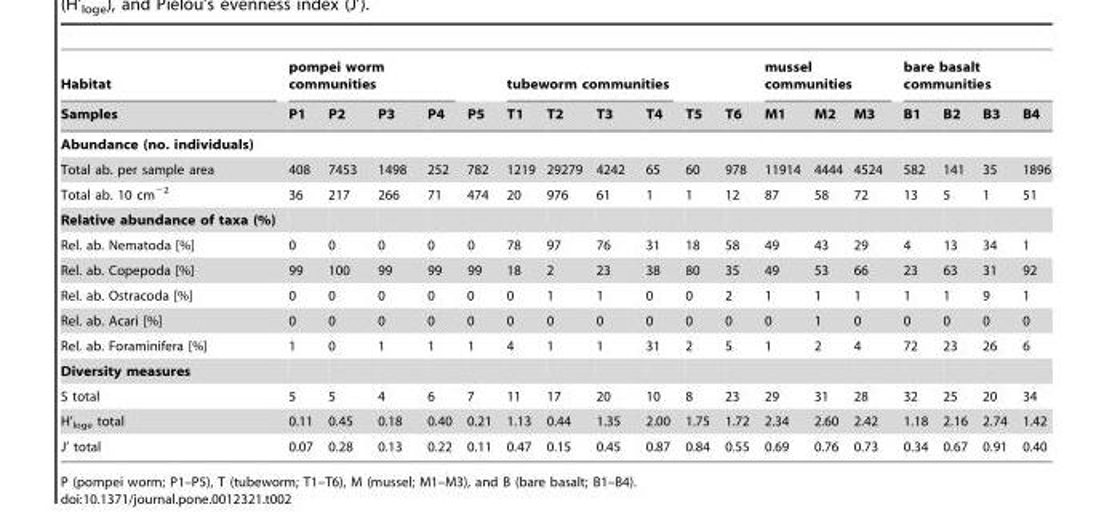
<table><thead><tr><td rowspan="2">Habitat Samples</td><td colspan="4">pompei worm communities</td><td rowspan="2">P5</td><td colspan="4">tubeworm communities</td><td rowspan="2">T5</td><td rowspan="2">T6</td><td colspan="3">mussel communities</td><td colspan="4">bare basalt communities</td></tr><tr><td>P1</td><td>P2</td><td>P3</td><td>P4</td><td>T1</td><td>T2</td><td>T3</td><td>T4</td><td>M1</td><td>M2</td><td>M3</td><td>B1</td><td>B2</td><td>B3</td><td>B4</td></tr></thead><tbody><tr><td colspan="19">Abundance (no. individuals)</td></tr><tr><td>Total ab. per sample area</td><td>408</td><td>7453</td><td>1498</td><td>252</td><td>782</td><td>1219</td><td>29279</td><td>4242</td><td>65</td><td>60</td><td>978</td><td>11914</td><td>4444</td><td>4524</td><td>582</td><td>141</td><td>35</td><td>1896</td></tr><tr><td>Total ab. 10 cm<sup>−2</sup></td><td>36</td><td>217</td><td>266</td><td>71</td><td>474</td><td>20</td><td>976</td><td>61</td><td>1</td><td>1</td><td>12</td><td>87</td><td>58</td><td>72</td><td>13</td><td>5</td><td>1</td><td>51</td></tr><tr><td colspan="19">Relative abundance of taxa (%)</td></tr><tr><td>Rel. ab. Nematoda [%]</td><td>0</td><td>0</td><td>0</td><td>0</td><td>0</td><td>78</td><td>97</td><td>76</td><td>31</td><td>18</td><td>58</td><td>49</td><td>43</td><td>29</td><td>4</td><td>13</td><td>34</td><td>1</td></tr><tr><td>Rel. ab. Copepoda [%]</td><td>99</td><td>100</td><td>99</td><td>99</td><td>99</td><td>18</td><td>2</td><td>23</td><td>38</td><td>80</td><td>35</td><td>49</td><td>53</td><td>66</td><td>23</td><td>63</td><td>31</td><td>92</td></tr><tr><td>Rel. ab. Ostracoda [%]</td><td>0</td><td>0</td><td>0</td><td>0</td><td>0</td><td>0</td><td>1</td><td>1</td><td>0</td><td>0</td><td>2</td><td>1</td><td>1</td><td>1</td><td>1</td><td>1</td><td>9</td><td>1</td></tr><tr><td>Rel. ab. Acari [%]</td><td>0</td><td>0</td><td>0</td><td>0</td><td>0</td><td>0</td><td>0</td><td>0</td><td>0</td><td>0</td><td>0</td><td>0</td><td>1</td><td>0</td><td>0</td><td>0</td><td>0</td><td>0</td></tr><tr><td>Rel. ab. Foraminifera [%]</td><td>1</td><td>0</td><td>1</td><td>1</td><td>1</td><td>4</td><td>1</td><td>1</td><td>31</td><td>2</td><td>5</td><td>1</td><td>2</td><td>4</td><td>72</td><td>23</td><td>26</td><td>6</td></tr><tr><td colspan="19">Diversity measures</td></tr><tr><td>S total</td><td>5</td><td>5</td><td>4</td><td>6</td><td>7</td><td>11</td><td>17</td><td>20</td><td>10</td><td>8</td><td>23</td><td>29</td><td>31</td><td>28</td><td>32</td><td>25</td><td>20</td><td>34</td></tr><tr><td>H’<sub>loge</sub> total</td><td>0.11</td><td>0.45</td><td>0.18</td><td>0.40</td><td>0.21</td><td>1.13</td><td>0.44</td><td>1.35</td><td>2.00</td><td>1.75</td><td>1.72</td><td>2.34</td><td>2.60</td><td>2.42</td><td>1.18</td><td>2.16</td><td>2.74</td><td>1.42</td></tr><tr><td>J’ total</td><td>0.07</td><td>0.28</td><td>0.13</td><td>0.22</td><td>0.11</td><td>0.47</td><td>0.15</td><td>0.45</td><td>0.87</td><td>0.84</td><td>0.55</td><td>0.69</td><td>0.76</td><td>0.73</td><td>0.34</td><td>0.67</td><td>0.91</td><td>0.40</td></tr></tbody></table>